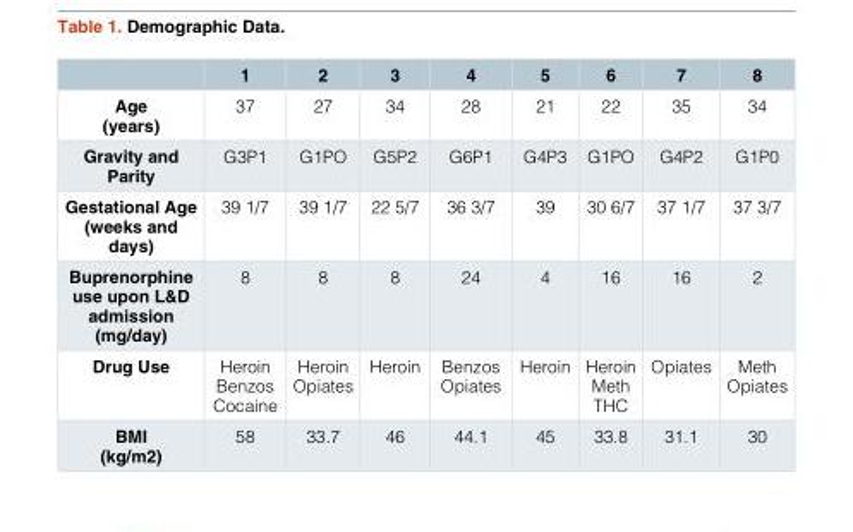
<table><thead><tr><td></td><td>1</td><td>2</td><td>3</td><td>4</td><td>5</td><td>6</td><td>7</td><td>8</td></tr></thead><tbody><tr><td>Age (years)</td><td>37</td><td>27</td><td>34</td><td>28</td><td>21</td><td>22</td><td>35</td><td>34</td></tr><tr><td>Gravity and Parity</td><td>G3P1</td><td>G1PO</td><td>G5P2</td><td>G6P1</td><td>G4P3</td><td>G1PO</td><td>G4P2</td><td>G1P0</td></tr><tr><td>Gestational Age (weeks and days)</td><td>39 1/7</td><td>39 1/7</td><td>22 5/7</td><td>36 3/7</td><td>39</td><td>30 6/7</td><td>37 1/7</td><td>37 3/7</td></tr><tr><td>Buprenorphine use upon L&amp;D admission (mg/day)</td><td>8</td><td>8</td><td>8</td><td>24</td><td>4</td><td>16</td><td>16</td><td>2</td></tr><tr><td>Drug Use</td><td>Heroin Benzos Cocaine</td><td>Heroin Opiates</td><td>Heroin</td><td>Benzos Opiates</td><td>Heroin</td><td>Heroin Meth THC</td><td>Opiates</td><td>Meth Opiates</td></tr><tr><td>BMI (kg/m2)</td><td>58</td><td>33.7</td><td>46</td><td>44.1</td><td>45</td><td>33.8</td><td>31.1</td><td>30</td></tr></tbody></table>